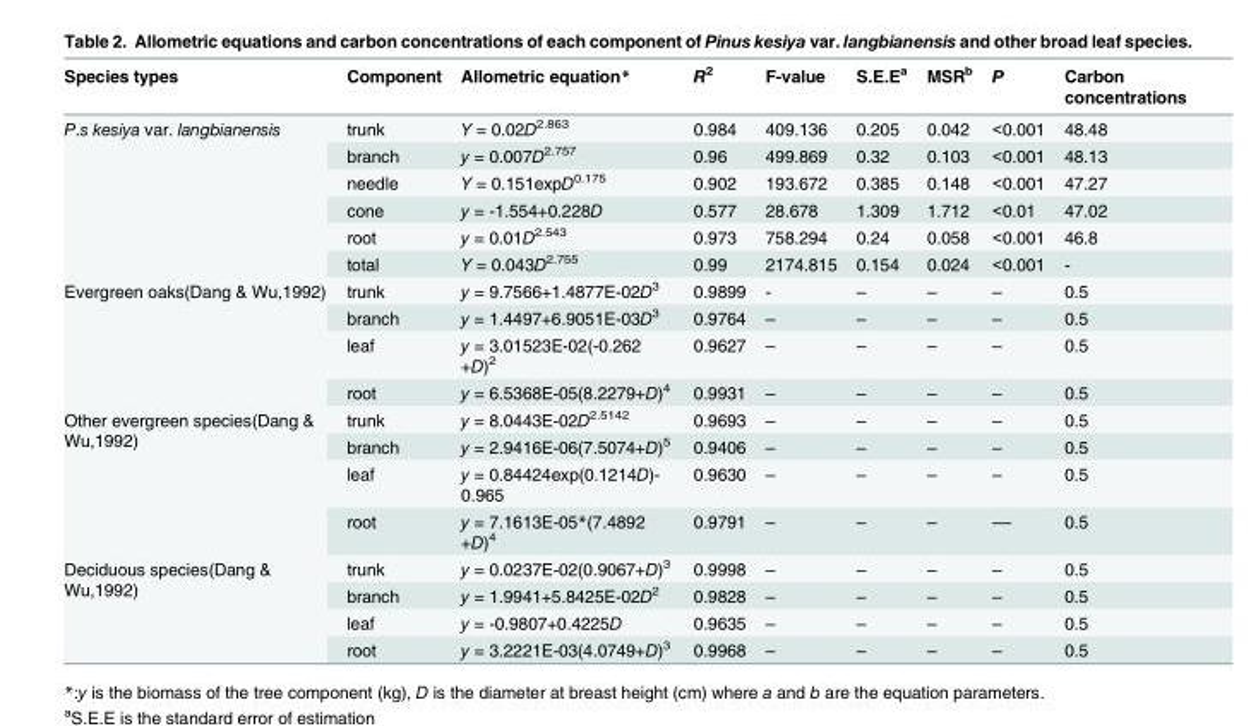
<table><thead><tr><td>Species types</td><td>Component</td><td>Allometric equation*</td><td>R<sup>2</sup></td><td>F-value</td><td>S.E.E<sup>a</sup></td><td>MSR<sup>b</sup></td><td>P</td><td>Carbon concentrations</td></tr></thead><tbody><tr><td rowspan="6">P.s kesiya var. langbianensis</td><td>trunk</td><td>Y = 0.02D<sup>2.863</sup></td><td>0.984</td><td>409.136</td><td>0.205</td><td>0.042</td><td>&lt;0.001</td><td>48.48</td></tr><tr><td>branch</td><td>y = 0.007D<sup>2.757</sup></td><td>0.96</td><td>499.869</td><td>0.32</td><td>0.103</td><td>&lt;0.001</td><td>48.13</td></tr><tr><td>needle</td><td>Y = 0.151expD<sup>0.175</sup></td><td>0.902</td><td>193.672</td><td>0.385</td><td>0.148</td><td>&lt;0.001</td><td>47.27</td></tr><tr><td>cone</td><td>y = -1.554+0.228D</td><td>0.577</td><td>28.678</td><td>1.309</td><td>1.712</td><td>&lt;0.01</td><td>47.02</td></tr><tr><td>root</td><td>y = 0.01D<sup>2.543</sup></td><td>0.973</td><td>758.294</td><td>0.24</td><td>0.058</td><td>&lt;0.001</td><td>46.8</td></tr><tr><td>total</td><td>Y = 0.043D<sup>2.755</sup></td><td>0.99</td><td>2174.815</td><td>0.154</td><td>0.024</td><td>&lt;0.001</td><td>-</td></tr><tr><td rowspan="4">Evergreen oaks(Dang &amp; Wu,1992)</td><td>trunk</td><td>y = 9.7566+1.4877E-02D<sup>3</sup></td><td>0.9899</td><td>-</td><td>–</td><td>–</td><td>–</td><td>0.5</td></tr><tr><td>branch</td><td>y = 1.4497+6.9051E-03D<sup>3</sup></td><td>0.9764</td><td>–</td><td>–</td><td>–</td><td>–</td><td>0.5</td></tr><tr><td>leaf</td><td>y = 3.01523E-02(-0.262 +D)<sup>2</sup></td><td>0.9627</td><td>–</td><td>–</td><td>–</td><td>–</td><td>0.5</td></tr><tr><td>root</td><td>y = 6.5368E-05(8.2279+D)<sup>4</sup></td><td>0.9931</td><td>–</td><td>–</td><td>–</td><td>–</td><td>0.5</td></tr><tr><td rowspan="4">Other evergreen species(Dang &amp; Wu,1992)</td><td>trunk</td><td>y = 8.0443E-02D<sup>2.5142</sup></td><td>0.9693</td><td>–</td><td>–</td><td>–</td><td>–</td><td>0.5</td></tr><tr><td>branch</td><td>y = 2.9416E-06(7.5074+D)<sup>5</sup></td><td>0.9406</td><td>–</td><td>–</td><td>–</td><td>–</td><td>0.5</td></tr><tr><td>leaf</td><td>y = 0.84424exp(0.1214D)- 0.965</td><td>0.9630</td><td>–</td><td>–</td><td>–</td><td>–</td><td>0.5</td></tr><tr><td>root</td><td>y = 7.1613E-05*(7.4892 +D)<sup>4</sup></td><td>0.9791</td><td>–</td><td>–</td><td>–</td><td>––</td><td>0.5</td></tr><tr><td rowspan="4">Deciduous species(Dang &amp; Wu,1992)</td><td>trunk</td><td>y = 0.0237E-02(0.9067+D)<sup>3</sup></td><td>0.9998</td><td>–</td><td>–</td><td>–</td><td>–</td><td>0.5</td></tr><tr><td>branch</td><td>y = 1.9941+5.8425E-02D<sup>2</sup></td><td>0.9828</td><td>–</td><td>–</td><td>–</td><td>–</td><td>0.5</td></tr><tr><td>leaf</td><td>y = -0.9807+0.4225D</td><td>0.9635</td><td>–</td><td>–</td><td>–</td><td>–</td><td>0.5</td></tr><tr><td>root</td><td>y = 3.2221E-03(4.0749+D)<sup>3</sup></td><td>0.9968</td><td>–</td><td>–</td><td>–</td><td>–</td><td>0.5</td></tr></tbody></table>